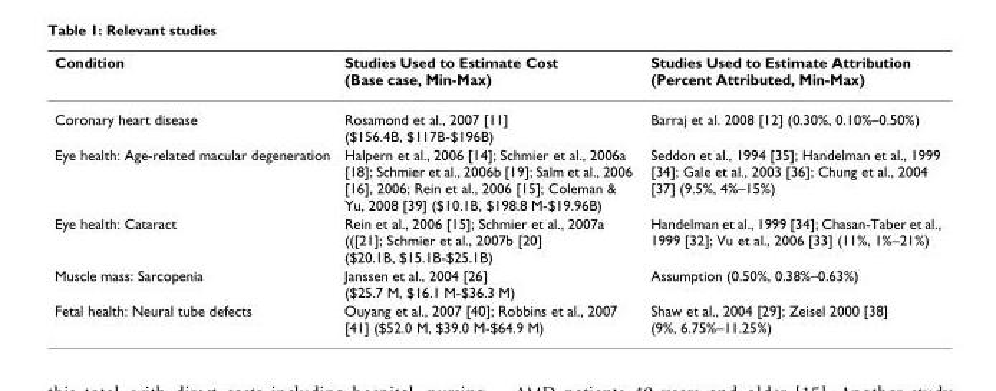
<table><thead><tr><td>Condition</td><td>Studies Used to Estimate Cost (Base case, Min-Max)</td><td>Studies Used to Estimate Attribution (Percent Attributed, Min-Max)</td></tr></thead><tbody><tr><td>Coronary heart disease</td><td>Rosamond et al., 2007 [11] ($156.4B, $117B-$196B)</td><td>Barraj et al. 2008 [12] (0.30%, 0.10%–0.50%)</td></tr><tr><td>Eye health: Age-related macular degeneration</td><td>Halpern et al., 2006 [14]; Schmier et al., 2006a [18]; Schmier et al., 2006b [19]; Salm et al., 2006 [16], 2006; Rein et al., 2006 [15]; Coleman &amp; Yu, 2008 [39] ($10.1B, $198.8 M-$19.96B)</td><td>Seddon et al., 1994 [35]; Handelman et al., 1999 [34]; Gale et al., 2003 [36]; Chung et al., 2004 [37] (9.5%, 4%–15%)</td></tr><tr><td>Eye health: Cataract</td><td>Rein et al., 2006 [15]; Schmier et al., 2007a (([21]; Schmier et al., 2007b [20] ($20.1B, $15.1B-$25.1B)</td><td>Handelman et al., 1999 [34]; Chasan-Taber et al., 1999 [32]; Vu et al., 2006 [33] (11%, 1%–21%)</td></tr><tr><td>Muscle mass: Sarcopenia</td><td>Janssen et al., 2004 [26] ($25.7 M, $16.1 M-$36.3 M)</td><td>Assumption (0.50%, 0.38%–0.63%)</td></tr><tr><td>Fetal health: Neural tube defects</td><td>Ouyang et al., 2007 [40]; Robbins et al., 2007 [41] ($52.0 M, $39.0 M-$64.9 M)</td><td>Shaw et al., 2004 [29]; Zeisel 2000 [38] (9%, 6.75%–11.25%)</td></tr></tbody></table>